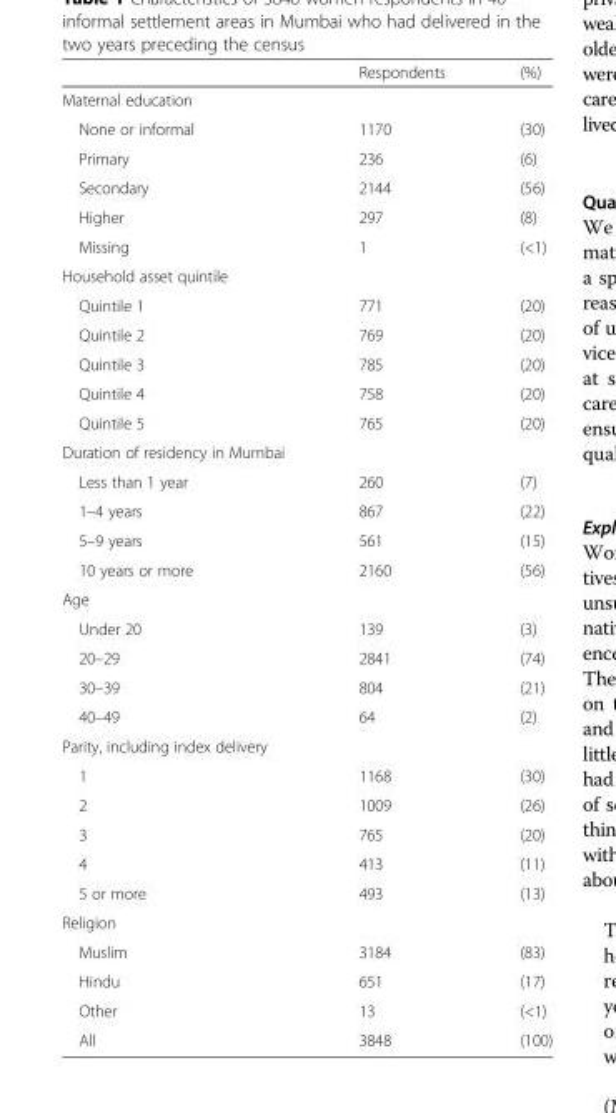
<table><thead><tr><td></td><td>Respondents</td><td>(%)</td></tr></thead><tbody><tr><td colspan="3">Maternal education</td></tr><tr><td>None or informal</td><td>1170</td><td>(30)</td></tr><tr><td>Primary</td><td>236</td><td>(6)</td></tr><tr><td>Secondary</td><td>2144</td><td>(56)</td></tr><tr><td>Higher</td><td>297</td><td>(8)</td></tr><tr><td>Missing</td><td>1</td><td>(&lt;1)</td></tr><tr><td colspan="3">Household asset quintile</td></tr><tr><td>Quintile 1</td><td>771</td><td>(20)</td></tr><tr><td>Quintile 2</td><td>769</td><td>(20)</td></tr><tr><td>Quintile 3</td><td>785</td><td>(20)</td></tr><tr><td>Quintile 4</td><td>758</td><td>(20)</td></tr><tr><td>Quintile 5</td><td>765</td><td>(20)</td></tr><tr><td colspan="3">Duration of residency in Mumbai</td></tr><tr><td>Less than 1 year</td><td>260</td><td>(7)</td></tr><tr><td>1–4 years</td><td>867</td><td>(22)</td></tr><tr><td>5–9 years</td><td>561</td><td>(15)</td></tr><tr><td>10 years or more</td><td>2160</td><td>(56)</td></tr><tr><td colspan="3">Age</td></tr><tr><td>Under 20</td><td>139</td><td>(3)</td></tr><tr><td>20–29</td><td>2841</td><td>(74)</td></tr><tr><td>30–39</td><td>804</td><td>(21)</td></tr><tr><td>40–49</td><td>64</td><td>(2)</td></tr><tr><td colspan="3">Parity, including index delivery</td></tr><tr><td>1</td><td>1168</td><td>(30)</td></tr><tr><td>2</td><td>1009</td><td>(26)</td></tr><tr><td>3</td><td>765</td><td>(20)</td></tr><tr><td>4</td><td>413</td><td>(11)</td></tr><tr><td>5 or more</td><td>493</td><td>(13)</td></tr><tr><td colspan="3">Religion</td></tr><tr><td>Muslim</td><td>3184</td><td>(83)</td></tr><tr><td>Hindu</td><td>651</td><td>(17)</td></tr><tr><td>Other</td><td>13</td><td>(&lt;1)</td></tr><tr><td>All</td><td>3848</td><td>(100)</td></tr></tbody></table>